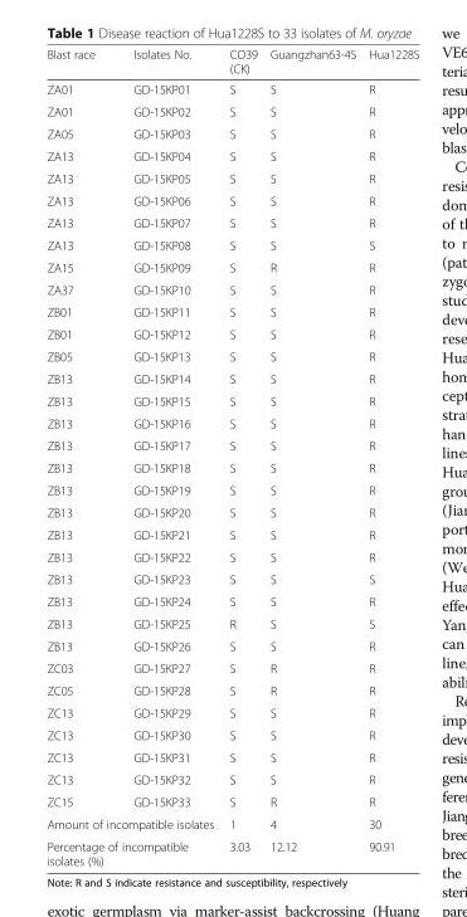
<table><thead><tr><td>Blast race</td><td>Isolates No.</td><td>CO39 (CK)</td><td>Guangzhan63-4S</td><td>Hua1228S</td></tr></thead><tbody><tr><td>ZA01</td><td>GD-15KP01</td><td>S</td><td>S</td><td>R</td></tr><tr><td>ZA01</td><td>GD-15KP02</td><td>S</td><td>S</td><td>R</td></tr><tr><td>ZA05</td><td>GD-15KP03</td><td>S</td><td>S</td><td>R</td></tr><tr><td>ZA13</td><td>GD-15KP04</td><td>S</td><td>S</td><td>R</td></tr><tr><td>ZA13</td><td>GD-15KP05</td><td>S</td><td>S</td><td>R</td></tr><tr><td>ZA13</td><td>GD-15KP06</td><td>S</td><td>S</td><td>R</td></tr><tr><td>ZA13</td><td>GD-15KP07</td><td>S</td><td>S</td><td>R</td></tr><tr><td>ZA13</td><td>GD-15KP08</td><td>S</td><td>S</td><td>S</td></tr><tr><td>ZA15</td><td>GD-15KP09</td><td>S</td><td>R</td><td>R</td></tr><tr><td>ZA37</td><td>GD-15KP10</td><td>S</td><td>S</td><td>R</td></tr><tr><td>ZB01</td><td>GD-15KP11</td><td>S</td><td>S</td><td>R</td></tr><tr><td>ZB01</td><td>GD-15KP12</td><td>S</td><td>S</td><td>R</td></tr><tr><td>ZB05</td><td>GD-15KP13</td><td>S</td><td>S</td><td>R</td></tr><tr><td>ZB13</td><td>GD-15KP14</td><td>S</td><td>S</td><td>R</td></tr><tr><td>ZB13</td><td>GD-15KP15</td><td>S</td><td>S</td><td>R</td></tr><tr><td>ZB13</td><td>GD-15KP16</td><td>S</td><td>S</td><td>R</td></tr><tr><td>ZB13</td><td>GD-15KP17</td><td>S</td><td>S</td><td>R</td></tr><tr><td>ZB13</td><td>GD-15KP18</td><td>S</td><td>S</td><td>R</td></tr><tr><td>ZB13</td><td>GD-15KP19</td><td>S</td><td>S</td><td>R</td></tr><tr><td>ZB13</td><td>GD-15KP20</td><td>S</td><td>S</td><td>R</td></tr><tr><td>ZB13</td><td>GD-15KP21</td><td>S</td><td>S</td><td>R</td></tr><tr><td>ZB13</td><td>GD-15KP22</td><td>S</td><td>S</td><td>R</td></tr><tr><td>ZB13</td><td>GD-15KP23</td><td>S</td><td>S</td><td>S</td></tr><tr><td>ZB13</td><td>GD-15KP24</td><td>S</td><td>S</td><td>R</td></tr><tr><td>ZB13</td><td>GD-15KP25</td><td>R</td><td>S</td><td>S</td></tr><tr><td>ZB13</td><td>GD-15KP26</td><td>S</td><td>S</td><td>R</td></tr><tr><td>ZC03</td><td>GD-15KP27</td><td>S</td><td>R</td><td>R</td></tr><tr><td>ZC05</td><td>GD-15KP28</td><td>S</td><td>R</td><td>R</td></tr><tr><td>ZC13</td><td>GD-15KP29</td><td>S</td><td>S</td><td>R</td></tr><tr><td>ZC13</td><td>GD-15KP30</td><td>S</td><td>S</td><td>R</td></tr><tr><td>ZC13</td><td>GD-15KP31</td><td>S</td><td>S</td><td>R</td></tr><tr><td>ZC13</td><td>GD-15KP32</td><td>S</td><td>S</td><td>R</td></tr><tr><td>ZC15</td><td>GD-15KP33</td><td>S</td><td>R</td><td>R</td></tr><tr><td colspan="2">Amount of incompatible isolates</td><td>1</td><td>4</td><td>30</td></tr><tr><td colspan="2">Percentage of incompatible isolates (%)</td><td>3.03</td><td>12.12</td><td>90.91</td></tr></tbody></table>